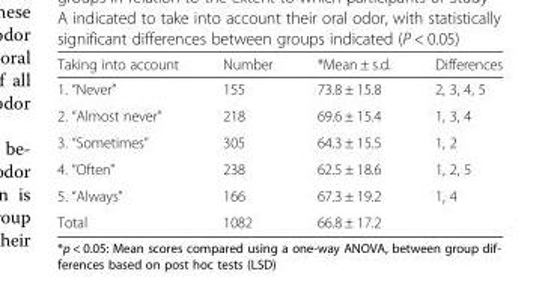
<table><thead><tr><td>Taking into account</td><td>Number</td><td>*Mean ± s.d.</td><td>Differences</td></tr></thead><tbody><tr><td>1. “Never”</td><td>155</td><td>73.8 ± 15.8</td><td>2, 3, 4, 5</td></tr><tr><td>2. “Almost never”</td><td>218</td><td>69.6 ± 15.4</td><td>1, 3, 4</td></tr><tr><td>3. “Sometimes”</td><td>305</td><td>64.3 ± 15.5</td><td>1, 2</td></tr><tr><td>4. “Often”</td><td>238</td><td>62.5 ± 18.6</td><td>1, 2, 5</td></tr><tr><td>5. “Always”</td><td>166</td><td>67.3 ± 19.2</td><td>1, 4</td></tr><tr><td>Total</td><td>1082</td><td>66.8 ± 17.2</td><td></td></tr></tbody></table>